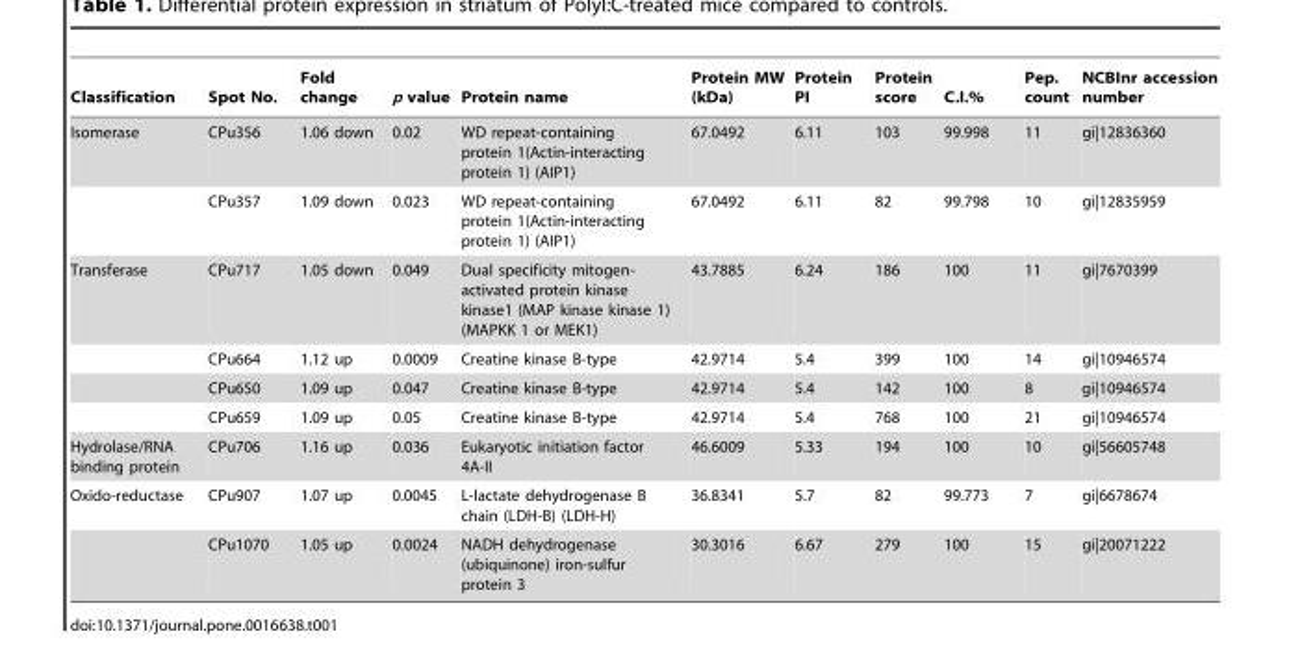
<table><thead><tr><td>Classification</td><td>Spot No.</td><td>Fold change</td><td>p value</td><td>Protein name</td><td>Protein MW (kDa)</td><td>Protein PI</td><td>Protein score</td><td>C.I.%</td><td>Pep. count</td><td>NCBInr accession number</td></tr></thead><tbody><tr><td rowspan="2">Isomerase</td><td>CPu356</td><td>1.06 down</td><td>0.02</td><td>WD repeat-containing protein 1(Actin-interacting protein 1) (AIP1)</td><td>67.0492</td><td>6.11</td><td>103</td><td>99.998</td><td>11</td><td>gi|12836360</td></tr><tr><td>CPu357</td><td>1.09 down</td><td>0.023</td><td>WD repeat-containing protein 1(Actin-interacting protein 1) (AIP1)</td><td>67.0492</td><td>6.11</td><td>82</td><td>99.798</td><td>10</td><td>gi|12835959</td></tr><tr><td rowspan="4">Transferase</td><td>CPu717</td><td>1.05 down</td><td>0.049</td><td>Dual specificity mitogen- activated protein kinase kinase1 (MAP kinase kinase 1) (MAPKK 1 or MEK1)</td><td>43.7885</td><td>6.24</td><td>186</td><td>100</td><td>11</td><td>gi|7670399</td></tr><tr><td>CPu664</td><td>1.12 up</td><td>0.0009</td><td>Creatine kinase B-type</td><td>42.9714</td><td>5.4</td><td>399</td><td>100</td><td>14</td><td>gi|10946574</td></tr><tr><td>CPu650</td><td>1.09 up</td><td>0.047</td><td>Creatine kinase B-type</td><td>42.9714</td><td>5.4</td><td>142</td><td>100</td><td>8</td><td>gi|10946574</td></tr><tr><td>CPu659</td><td>1.09 up</td><td>0.05</td><td>Creatine kinase B-type</td><td>42.9714</td><td>5.4</td><td>768</td><td>100</td><td>21</td><td>gi|10946574</td></tr><tr><td>Hydrolase/RNA binding protein</td><td>CPu706</td><td>1.16 up</td><td>0.036</td><td>Eukaryotic initiation factor 4A-II</td><td>46.6009</td><td>5.33</td><td>194</td><td>100</td><td>10</td><td>gi|56605748</td></tr><tr><td rowspan="2">Oxido-reductase</td><td>CPu907</td><td>1.07 up</td><td>0.0045</td><td>L-lactate dehydrogenase B chain (LDH-B) (LDH-H)</td><td>36.8341</td><td>5.7</td><td>82</td><td>99.773</td><td>7</td><td>gi|6678674</td></tr><tr><td>CPu1070</td><td>1.05 up</td><td>0.0024</td><td>NADH dehydrogenase (ubiquinone) iron-sulfur protein 3</td><td>30.3016</td><td>6.67</td><td>279</td><td>100</td><td>15</td><td>gi|20071222</td></tr></tbody></table>